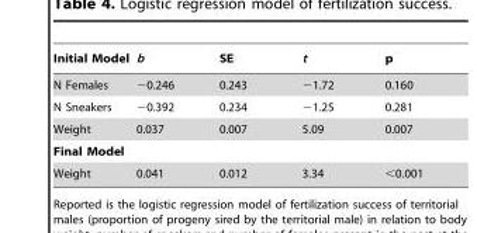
<table><thead><tr><td>Initial Model</td><td>b</td><td>SE</td><td>t</td><td>p</td></tr></thead><tbody><tr><td>N Females</td><td>−0.246</td><td>0.243</td><td>−1.72</td><td>0.160</td></tr><tr><td>N Sneakers</td><td>−0.392</td><td>0.234</td><td>−1.25</td><td>0.281</td></tr><tr><td>Weight</td><td>0.037</td><td>0.007</td><td>5.09</td><td>0.007</td></tr><tr><td colspan="5">Final Model</td></tr><tr><td>Weight</td><td>0.041</td><td>0.012</td><td>3.34</td><td>&lt;0.001</td></tr></tbody></table>